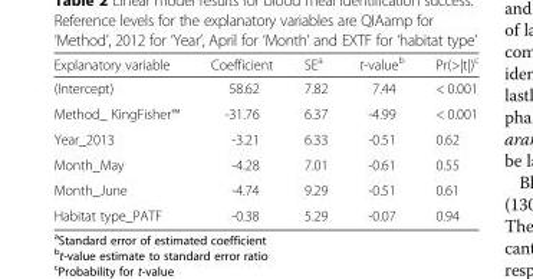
<table><thead><tr><td>Explanatory variable</td><td>Coefficient</td><td>SE<sup>a</sup></td><td>t-value<sup>b</sup></td><td>Pr(&gt;|t|)<sup>c</sup></td></tr></thead><tbody><tr><td>(Intercept)</td><td>58.62</td><td>7.82</td><td>7.44</td><td>&lt; 0.001</td></tr><tr><td>Method_ KingFisher™</td><td>-31.76</td><td>6.37</td><td>-4.99</td><td>&lt; 0.001</td></tr><tr><td>Year_2013</td><td>-3.21</td><td>6.33</td><td>-0.51</td><td>0.62</td></tr><tr><td>Month_May</td><td>-4.28</td><td>7.01</td><td>-0.61</td><td>0.55</td></tr><tr><td>Month_June</td><td>-4.74</td><td>9.29</td><td>-0.51</td><td>0.61</td></tr><tr><td>Habitat type_PATF</td><td>-0.38</td><td>5.29</td><td>-0.07</td><td>0.94</td></tr></tbody></table>